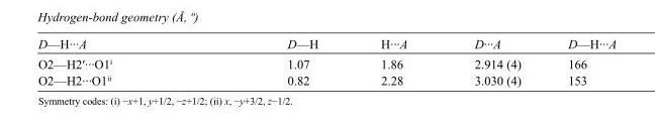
<table><tbody><tr><td>D—H···A</td><td>D—H</td><td>H···A</td><td>D···A</td><td>D—H···A</td></tr><tr><td>O2—H2′···O1<sup>i</sup></td><td>1.07</td><td>1.86</td><td>2.914 (4)</td><td>166</td></tr><tr><td>O2—H2···O1<sup>ii</sup></td><td>0.82</td><td>2.28</td><td>3.030 (4)</td><td>153</td></tr></tbody></table>